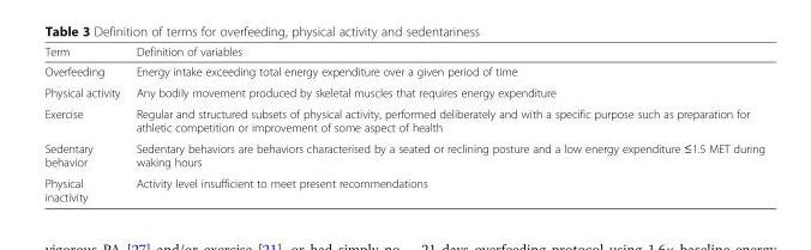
<table><thead><tr><td>Term</td><td>Definition of variables</td></tr></thead><tbody><tr><td>Overfeeding</td><td>Energy intake exceeding total energy expenditure over a given period of time</td></tr><tr><td>Physical activity</td><td>Any bodily movement produced by skeletal muscles that requires energy expenditure</td></tr><tr><td>Exercise</td><td>Regular and structured subsets of physical activity, performed deliberately and with a specific purpose such as preparation for athletic competition or improvement of some aspect of health</td></tr><tr><td>Sedentary behavior</td><td>Sedentary behaviors are behaviors characterised by a seated or reclining posture and a low energy expenditure ≤1.5 MET during waking hours</td></tr><tr><td>Physical inactivity</td><td>Activity level insufficient to meet present recommendations</td></tr></tbody></table>